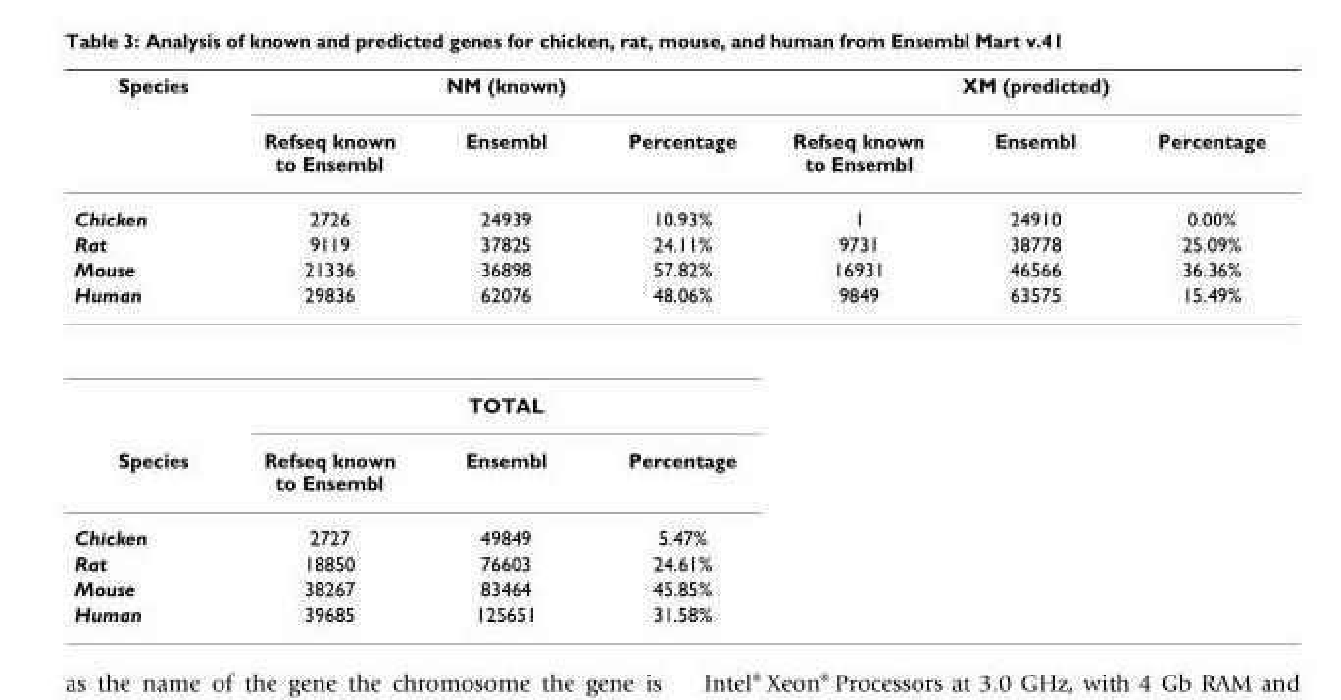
<table><thead><tr><td rowspan="2">Species</td><td colspan="3">NM (known)</td><td colspan="3">XM (predicted)</td></tr><tr><td>Refseq known to Ensembl</td><td>Ensembl</td><td>Percentage</td><td>Refseq known to Ensembl</td><td>Ensembl</td><td>Percentage</td></tr></thead><tbody><tr><td>Chicken</td><td>2726</td><td>24939</td><td>10.93%</td><td>1</td><td>24910</td><td>0.00%</td></tr><tr><td>Rat</td><td>9119</td><td>37825</td><td>24.11%</td><td>9731</td><td>38778</td><td>25.09%</td></tr><tr><td>Mouse</td><td>21336</td><td>36898</td><td>57.82%</td><td>16931</td><td>46566</td><td>36.36%</td></tr><tr><td rowspan="2">Human</td><td>29836</td><td>62076</td><td>48.06%</td><td>9849</td><td>63575</td><td>15.49%</td></tr><tr><td colspan="3">TOTAL</td><td></td><td></td><td></td></tr><tr><td>Species</td><td>Refseq known to Ensembl</td><td>Ensembl</td><td>Percentage</td><td></td><td></td><td></td></tr><tr><td>Chicken</td><td>2727</td><td>49849</td><td>5.47%</td><td></td><td></td><td></td></tr><tr><td>Rat</td><td>18850</td><td>76603</td><td>24.61%</td><td></td><td></td><td></td></tr><tr><td>Mouse</td><td>38267</td><td>83464</td><td>45.85%</td><td></td><td></td><td></td></tr><tr><td>Human</td><td>39685</td><td>125651</td><td>31.58%</td><td></td><td></td><td></td></tr></tbody></table>